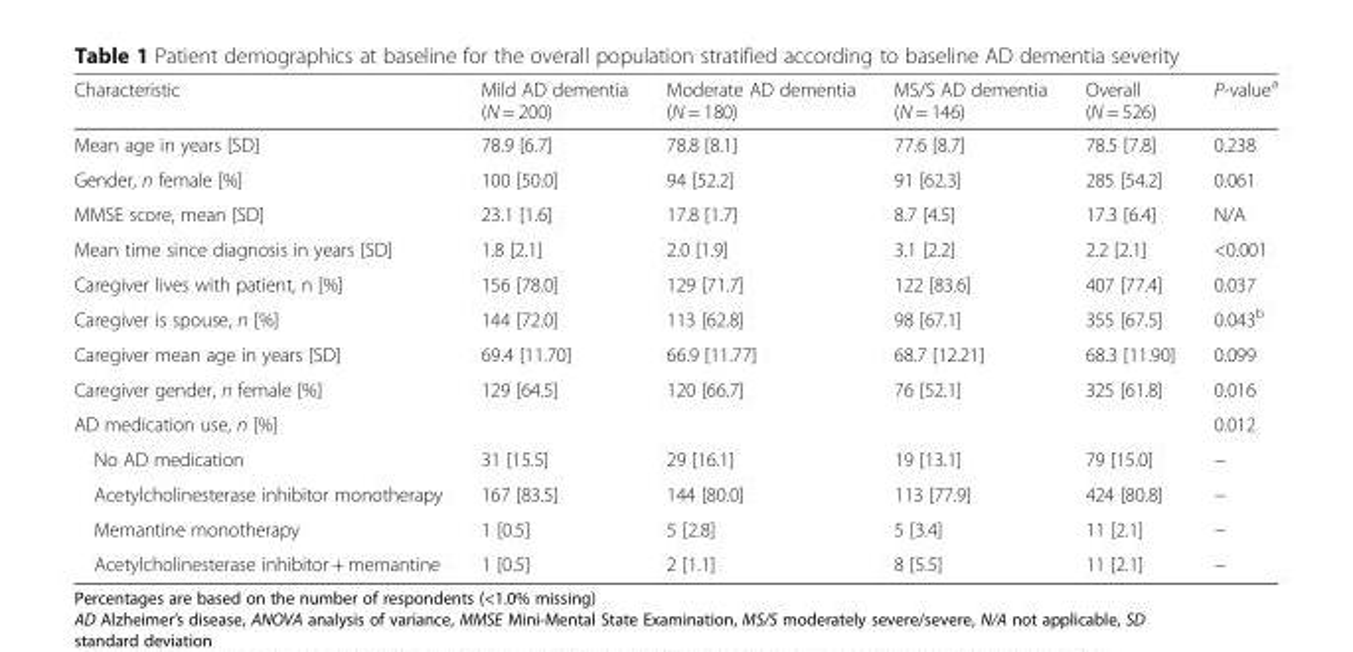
<table><thead><tr><td>Characteristic</td><td>Mild AD dementia (N = 200)</td><td>Moderate AD dementia (N = 180)</td><td>MS/S AD dementia (N = 146)</td><td>Overall (N = 526)</td><td>P-value<sup>a</sup></td></tr></thead><tbody><tr><td>Mean age in years [SD]</td><td>78.9 [6.7]</td><td>78.8 [8.1]</td><td>77.6 [8.7]</td><td>78.5 [7.8]</td><td>0.238</td></tr><tr><td>Gender, n female [%]</td><td>100 [50.0]</td><td>94 [52.2]</td><td>91 [62.3]</td><td>285 [54.2]</td><td>0.061</td></tr><tr><td>MMSE score, mean [SD]</td><td>23.1 [1.6]</td><td>17.8 [1.7]</td><td>8.7 [4.5]</td><td>17.3 [6.4]</td><td>N/A</td></tr><tr><td>Mean time since diagnosis in years [SD]</td><td>1.8 [2.1]</td><td>2.0 [1.9]</td><td>3.1 [2.2]</td><td>2.2 [2.1]</td><td>&lt;0.001</td></tr><tr><td>Caregiver lives with patient, n [%]</td><td>156 [78.0]</td><td>129 [71.7]</td><td>122 [83.6]</td><td>407 [77.4]</td><td>0.037</td></tr><tr><td>Caregiver is spouse, n [%]</td><td>144 [72.0]</td><td>113 [62.8]</td><td>98 [67.1]</td><td>355 [67.5]</td><td>0.043<sup>b</sup></td></tr><tr><td>Caregiver mean age in years [SD]</td><td>69.4 [11.70]</td><td>66.9 [11.77]</td><td>68.7 [12.21]</td><td>68.3 [11.90]</td><td>0.099</td></tr><tr><td>Caregiver gender, n female [%]</td><td>129 [64.5]</td><td>120 [66.7]</td><td>76 [52.1]</td><td>325 [61.8]</td><td>0.016</td></tr><tr><td>AD medication use, n [%]</td><td></td><td></td><td></td><td></td><td>0.012</td></tr><tr><td>No AD medication</td><td>31 [15.5]</td><td>29 [16.1]</td><td>19 [13.1]</td><td>79 [15.0]</td><td>−</td></tr><tr><td>Acetylcholinesterase inhibitor monotherapy</td><td>167 [83.5]</td><td>144 [80.0]</td><td>113 [77.9]</td><td>424 [80.8]</td><td>−</td></tr><tr><td>Memantine monotherapy</td><td>1 [0.5]</td><td>5 [2.8]</td><td>5 [3.4]</td><td>11 [2.1]</td><td>−</td></tr><tr><td>Acetylcholinesterase inhibitor + memantine</td><td>1 [0.5]</td><td>2 [1.1]</td><td>8 [5.5]</td><td>11 [2.1]</td><td>−</td></tr></tbody></table>